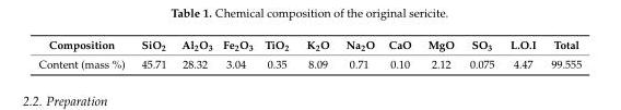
<table><thead><tr><td>Composition</td><td>SiO<sub>2</sub></td><td>Al<sub>2</sub>O<sub>3</sub></td><td>Fe<sub>2</sub>O<sub>3</sub></td><td>TiO<sub>2</sub></td><td>K<sub>2</sub>O</td><td>Na<sub>2</sub>O</td><td>CaO</td><td>MgO</td><td>SO<sub>3</sub></td><td>L.O.I</td><td>Total</td></tr></thead><tbody><tr><td>Content (mass %)</td><td>45.71</td><td>28.32</td><td>3.04</td><td>0.35</td><td>8.09</td><td>0.71</td><td>0.10</td><td>2.12</td><td>0.075</td><td>4.47</td><td>99.555</td></tr></tbody></table>